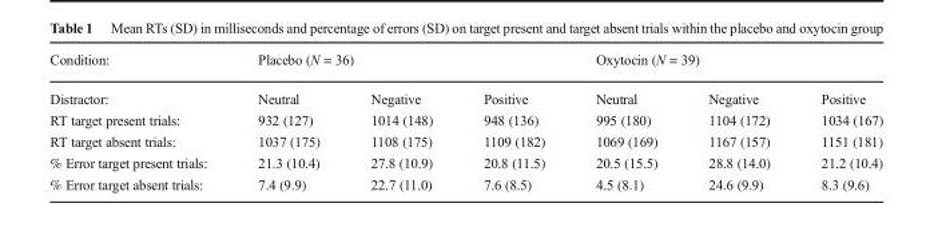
<table><tbody><tr><td>Condition:</td><td colspan="3">Placebo (N = 36)</td><td colspan="3">Oxytocin (N = 39)</td></tr><tr><td>Distractor:</td><td>Neutral</td><td>Negative</td><td>Positive</td><td>Neutral</td><td>Negative</td><td>Positive</td></tr><tr><td>RT target present trials:</td><td>932 (127)</td><td>1014 (148)</td><td>948 (136)</td><td>995 (180)</td><td>1104 (172)</td><td>1034 (167)</td></tr><tr><td>RT target absent trials:</td><td>1037 (175)</td><td>1108 (175)</td><td>1109 (182)</td><td>1069 (169)</td><td>1167 (157)</td><td>1151 (181)</td></tr><tr><td>% Error target present trials:</td><td>21.3 (10.4)</td><td>27.8 (10.9)</td><td>20.8 (11.5)</td><td>20.5 (15.5)</td><td>28.8 (14.0)</td><td>21.2 (10.4)</td></tr><tr><td>% Error target absent trials:</td><td>7.4 (9.9)</td><td>22.7 (11.0)</td><td>7.6 (8.5)</td><td>4.5 (8.1)</td><td>24.6 (9.9)</td><td>8.3 (9.6)</td></tr></tbody></table>